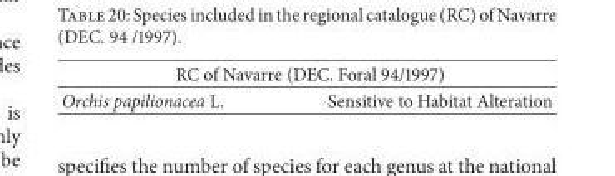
<table><thead><tr><td colspan="2">RC of Navarre (DEC. Foral 94/1997)</td></tr><tr><td>Orchis papilionacea L.</td><td>Sensitive to Habitat Alteration</td></tr></thead><tbody></tbody></table>